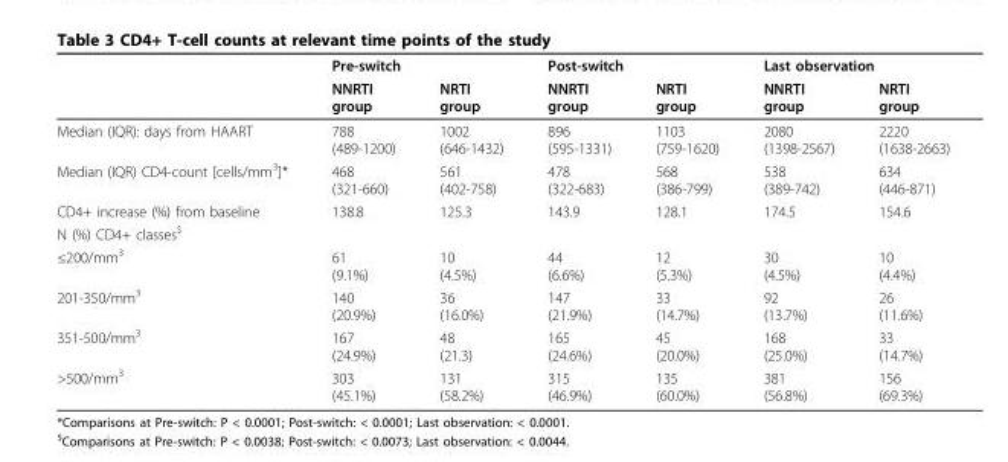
<table><thead><tr><td rowspan="2"></td><td colspan="2">Pre-switch</td><td colspan="2">Post-switch</td><td colspan="2">Last observation</td></tr><tr><td>NNRTI group</td><td>NRTI group</td><td>NNRTI group</td><td>NRTI group</td><td>NNRTI group</td><td>NRTI group</td></tr></thead><tbody><tr><td>Median (IQR): days from HAART</td><td>788 (489-1200)</td><td>1002 (646-1432)</td><td>896 (595-1331)</td><td>1103 (759-1620)</td><td>2080 (1398-2567)</td><td>2220 (1638-2663)</td></tr><tr><td>Median (IQR) CD4-count [cells/mm<sup>3</sup>]*</td><td>468 (321-660)</td><td>561 (402-758)</td><td>478 (322-683)</td><td>568 (386-799)</td><td>538 (389-742)</td><td>634 (446-871)</td></tr><tr><td>CD4+ increase (%) from baseline</td><td>138.8</td><td>125.3</td><td>143.9</td><td>128.1</td><td>174.5</td><td>154.6</td></tr><tr><td colspan="7">N (%) CD4+ classes<sup>$</sup></td></tr><tr><td>≤200/mm3</td><td>61 (9.1%)</td><td>10 (4.5%)</td><td>44 (6.6%)</td><td>12 (5.3%)</td><td>30 (4.5%)</td><td>10 (4.4%)</td></tr><tr><td>201-350/mm<sup>3</sup></td><td>140 (20.9%)</td><td>36 (16.0%)</td><td>147 (21.9%)</td><td>33 (14.7%)</td><td>92 (13.7%)</td><td>26 (11.6%)</td></tr><tr><td>351-500/mm<sup>3</sup></td><td>167 (24.9%)</td><td>48 (21.3)</td><td>165 (24.6%)</td><td>45 (20.0%)</td><td>168 (25.0%)</td><td>33 (14.7%)</td></tr><tr><td>&gt;500/mm<sup>3</sup></td><td>303 (45.1%)</td><td>131 (58.2%)</td><td>315 (46.9%)</td><td>135 (60.0%)</td><td>381 (56.8%)</td><td>156 (69.3%)</td></tr></tbody></table>